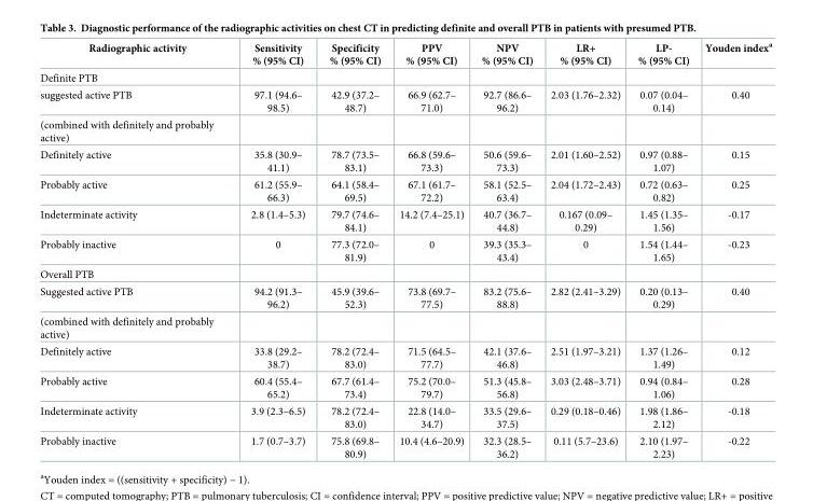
<table><thead><tr><td>Radiographic activity</td><td>Sensitivity % (95% CI)</td><td>Specificity % (95% CI)</td><td>PPV % (95% CI)</td><td>NPV % (95% CI)</td><td>LR+ % (95% CI)</td><td>LP- % (95% CI)</td><td>Youden index<sup>a</sup></td></tr></thead><tbody><tr><td colspan="8">Definite PTB</td></tr><tr><td>suggested active PTB</td><td>97.1 (94.6– 98.5)</td><td>42.9 (37.2– 48.7)</td><td>66.9 (62.7– 71.0)</td><td>92.7 (86.6– 96.2)</td><td>2.03 (1.76–2.32)</td><td>0.07 (0.04– 0.14)</td><td>0.40</td></tr><tr><td colspan="8">(combined with definitely and probably active)</td></tr><tr><td>Definitely active</td><td>35.8 (30.9– 41.1)</td><td>78.7 (73.5– 83.1)</td><td>66.8 (59.6– 73.3)</td><td>50.6 (59.6– 73.3)</td><td>2.01 (1.60–2.52)</td><td>0.97 (0.88– 1.07)</td><td>0.15</td></tr><tr><td>Probably active</td><td>61.2 (55.9– 66.3)</td><td>64.1 (58.4– 69.5)</td><td>67.1 (61.7– 72.2)</td><td>58.1 (52.5– 63.4)</td><td>2.04 (1.72–2.43)</td><td>0.72 (0.63– 0.82)</td><td>0.25</td></tr><tr><td>Indeterminate activity</td><td>2.8 (1.4–5.3)</td><td>79.7 (74.6– 84.1)</td><td>14.2 (7.4–25.1)</td><td>40.7 (36.7– 44.8)</td><td>0.167 (0.09– 0.29)</td><td>1.45 (1.35– 1.56)</td><td>-0.17</td></tr><tr><td>Probably inactive</td><td>0</td><td>77.3 (72.0– 81.9)</td><td>0</td><td>39.3 (35.3– 43.4)</td><td>0</td><td>1.54 (1.44– 1.65)</td><td>-0.23</td></tr><tr><td colspan="8">Overall PTB</td></tr><tr><td>Suggested active PTB</td><td>94.2 (91.3– 96.2)</td><td>45.9 (39.6– 52.3)</td><td>73.8 (69.7– 77.5)</td><td>83.2 (75.6– 88.8)</td><td>2.82 (2.41–3.29)</td><td>0.20 (0.13– 0.29)</td><td>0.40</td></tr><tr><td colspan="8">(combined with definitely and probably active)</td></tr><tr><td>Definitely active</td><td>33.8 (29.2– 38.7)</td><td>78.2 (72.4– 83.0)</td><td>71.5 (64.5– 77.7)</td><td>42.1 (37.6– 46.8)</td><td>2.51 (1.97–3.21)</td><td>1.37 (1.26– 1.49)</td><td>0.12</td></tr><tr><td>Probably active</td><td>60.4 (55.4– 65.2)</td><td>67.7 (61.4– 73.4)</td><td>75.2 (70.0– 79.7)</td><td>51.3 (45.8– 56.8)</td><td>3.03 (2.48–3.71)</td><td>0.94 (0.84– 1.06)</td><td>0.28</td></tr><tr><td>Indeterminate activity</td><td>3.9 (2.3–6.5)</td><td>78.2 (72.4– 83.0)</td><td>22.8 (14.0– 34.7)</td><td>33.5 (29.6– 37.5)</td><td>0.29 (0.18–0.46)</td><td>1.98 (1.86– 2.12)</td><td>-0.18</td></tr><tr><td>Probably inactive</td><td>1.7 (0.7–3.7)</td><td>75.8 (69.8– 80.9)</td><td>10.4 (4.6–20.9)</td><td>32.3 (28.5– 36.2)</td><td>0.11 (5.7–23.6)</td><td>2.10 (1.97– 2.23)</td><td>-0.22</td></tr></tbody></table>